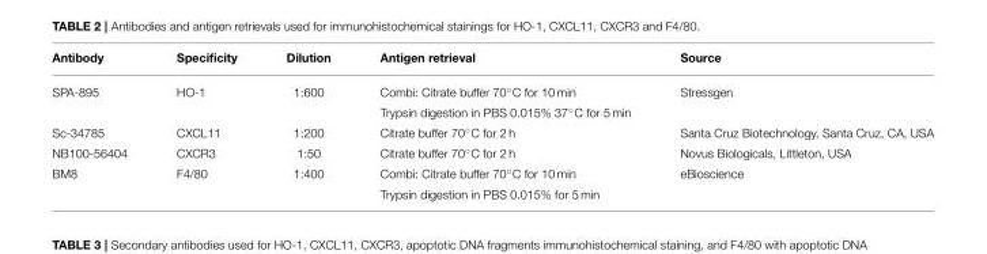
<table><thead><tr><td>Antibody</td><td>Specificity</td><td>Dilution</td><td>Antigen retrieval</td><td>Source</td></tr></thead><tbody><tr><td rowspan="2">SPA-895</td><td>HO-1</td><td>1:600</td><td>Combi: Citrate buffer 70◦C for 10 min</td><td>Stressgen</td></tr><tr><td></td><td></td><td>Trypsin digestion in PBS 0.015% 37◦C for 5 min</td><td></td></tr><tr><td>Sc-34785</td><td>CXCL11</td><td>1:200</td><td>Citrate buffer 70◦C for 2 h</td><td>Santa Cruz Biotechnology, Santa Cruz, CA, USA</td></tr><tr><td>NB100-56404</td><td>CXCR3</td><td>1:50</td><td>Citrate buffer 70◦C for 2 h</td><td>Novus Biologicals, Littleton, USA</td></tr><tr><td rowspan="2">BM8</td><td>F4/80</td><td>1:400</td><td>Combi: Citrate buffer 70◦C for 10 min</td><td>eBioscience</td></tr><tr><td></td><td></td><td>Trypsin digestion in PBS 0.015% for 5 min</td><td></td></tr></tbody></table>